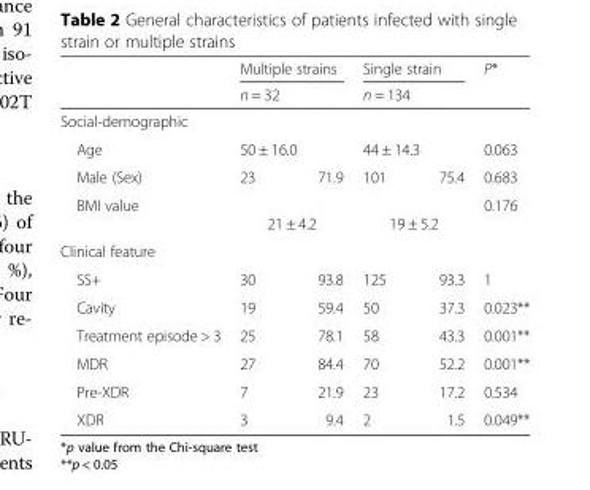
<table><thead><tr><td rowspan="2"></td><td colspan="2">Multiple strains</td><td colspan="2">Single strain</td><td rowspan="2">P*</td></tr><tr><td>n = 32</td><td></td><td>n = 134</td><td></td></tr></thead><tbody><tr><td colspan="6">Social-demographic</td></tr><tr><td>Age</td><td>50 ± 16.0</td><td></td><td>44 ± 14.3</td><td></td><td>0.063</td></tr><tr><td>Male (Sex)</td><td>23</td><td>71.9</td><td>101</td><td>75.4</td><td>0.683</td></tr><tr><td>BMI value</td><td colspan="2">21 ± 4.2</td><td colspan="2">19 ± 5.2</td><td>0.176</td></tr><tr><td colspan="6">Clinical feature</td></tr><tr><td>SS+</td><td>30</td><td>93.8</td><td>125</td><td>93.3</td><td>1</td></tr><tr><td>Cavity</td><td>19</td><td>59.4</td><td>50</td><td>37.3</td><td>0.023**</td></tr><tr><td>Treatment episode &gt; 3</td><td>25</td><td>78.1</td><td>58</td><td>43.3</td><td>0.001**</td></tr><tr><td>MDR</td><td>27</td><td>84.4</td><td>70</td><td>52.2</td><td>0.001**</td></tr><tr><td>Pre-XDR</td><td>7</td><td>21.9</td><td>23</td><td>17.2</td><td>0.534</td></tr><tr><td>XDR</td><td>3</td><td>9.4</td><td>2</td><td>1.5</td><td>0.049**</td></tr></tbody></table>